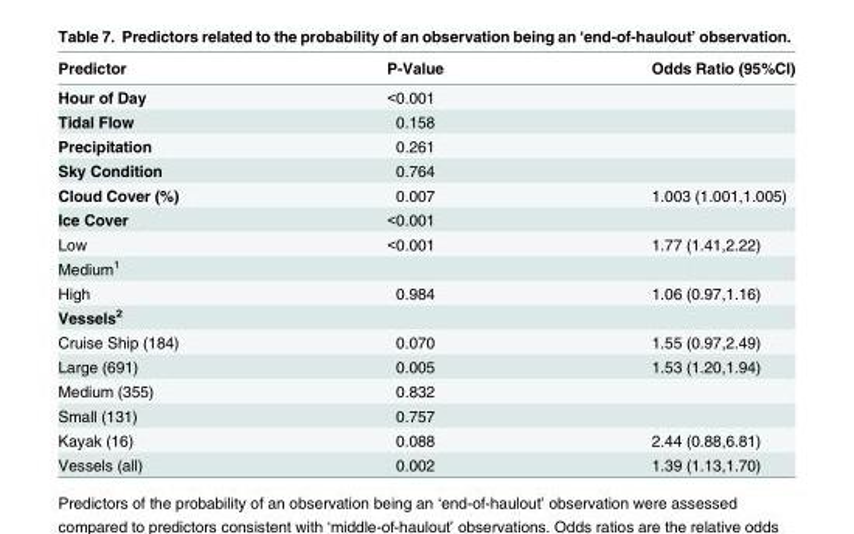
<table><thead><tr><td>Predictor</td><td>P-Value</td><td>Odds Ratio (95%CI)</td></tr></thead><tbody><tr><td>Hour of Day</td><td>&lt;0.001</td><td></td></tr><tr><td>Tidal Flow</td><td>0.158</td><td></td></tr><tr><td>Precipitation</td><td>0.261</td><td></td></tr><tr><td>Sky Condition</td><td>0.764</td><td></td></tr><tr><td>Cloud Cover (%)</td><td>0.007</td><td>1.003 (1.001,1.005)</td></tr><tr><td>Ice Cover</td><td>&lt;0.001</td><td></td></tr><tr><td>Low</td><td>&lt;0.001</td><td>1.77 (1.41,2.22)</td></tr><tr><td colspan="3">Medium<sup>1</sup></td></tr><tr><td>High</td><td>0.984</td><td>1.06 (0.97,1.16)</td></tr><tr><td colspan="3">Vessels<sup>2</sup></td></tr><tr><td>Cruise Ship (184)</td><td>0.070</td><td>1.55 (0.97,2.49)</td></tr><tr><td>Large (691)</td><td>0.005</td><td>1.53 (1.20,1.94)</td></tr><tr><td>Medium (355)</td><td>0.832</td><td></td></tr><tr><td>Small (131)</td><td>0.757</td><td></td></tr><tr><td>Kayak (16)</td><td>0.088</td><td>2.44 (0.88,6.81)</td></tr><tr><td>Vessels (all)</td><td>0.002</td><td>1.39 (1.13,1.70)</td></tr></tbody></table>